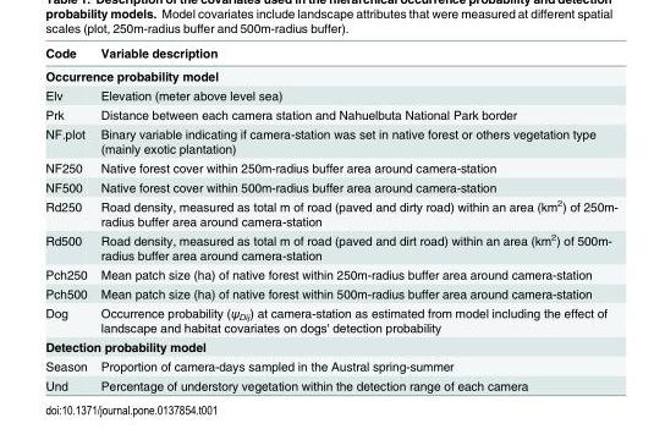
<table><thead><tr><td>Code</td><td>Variable description</td></tr></thead><tbody><tr><td colspan="2">Occurrence probability model</td></tr><tr><td>Elv</td><td>Elevation (meter above level sea)</td></tr><tr><td>Prk</td><td>Distance between each camera station and Nahuelbuta National Park border</td></tr><tr><td>NF.plot</td><td>Binary variable indicating if camera-station was set in native forest or others vegetation type (mainly exotic plantation)</td></tr><tr><td>NF250</td><td>Native forest cover within 250m-radius buffer area around camera-station</td></tr><tr><td>NF500</td><td>Native forest cover within 500m-radius buffer area around camera-station</td></tr><tr><td>Rd250</td><td>Road density, measured as total m of road (paved and dirty road) within an area (km<sup>2</sup>) of 250m- radius buffer area around camera-station</td></tr><tr><td>Rd500</td><td>Road density, measured as total m of road (paved and dirt road) within an area (km<sup>2</sup>) of 500m- radius buffer area around camera-station</td></tr><tr><td>Pch250</td><td>Mean patch size (ha) of native forest within 250m-radius buffer area around camera-station</td></tr><tr><td>Pch500</td><td>Mean patch size (ha) of native forest within 500m-radius buffer area around camera-station</td></tr><tr><td>Dog</td><td>Occurrence probability (ψ<sub>Dij</sub>) at camera-station as estimated from model including the effect of landscape and habitat covariates on dogs&#x27; detection probability</td></tr><tr><td colspan="2">Detection probability model</td></tr><tr><td>Season</td><td>Proportion of camera-days sampled in the Austral spring-summer</td></tr><tr><td>Und</td><td>Percentage of understory vegetation within the detection range of each camera</td></tr></tbody></table>